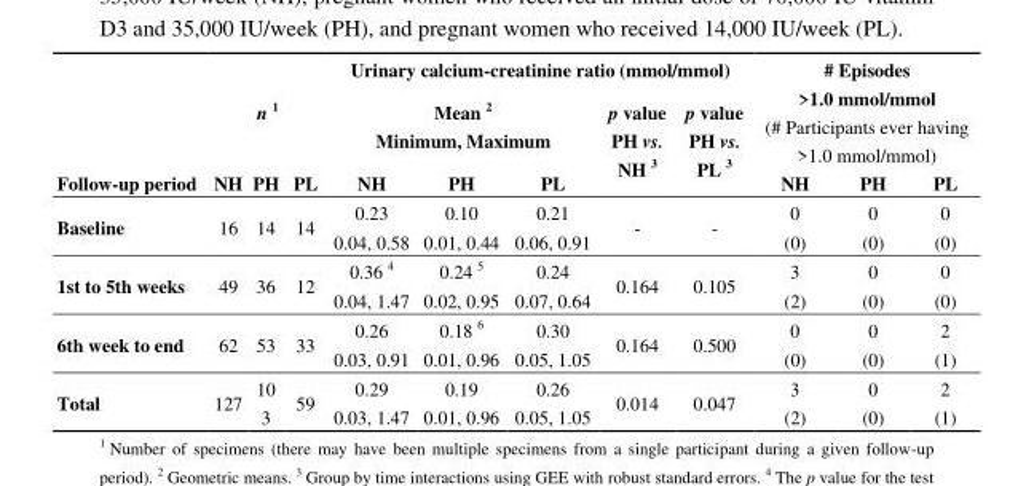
<table><thead><tr><td rowspan="3">Follow-up period</td><td rowspan="2" colspan="3">n <sup>1</sup></td><td colspan="5">Urinary calcium-creatinine ratio (mmol/mmol)</td><td rowspan="2" colspan="3"># Episodes &gt;1.0 mmol/mmol (# Participants ever having &gt;1.0 mmol/mmol)</td></tr><tr><td colspan="3">Mean <sup>2</sup> Minimum, Maximum</td><td rowspan="2">p value PH vs. NH <sup>3</sup></td><td rowspan="2">p value PH vs. PL <sup>3</sup></td></tr><tr><td>NH</td><td>PH</td><td>PL</td><td>NH</td><td>PH</td><td>PL</td><td>NH</td><td>PH</td><td>PL</td></tr></thead><tbody><tr><td rowspan="2">Baseline</td><td rowspan="2">16</td><td rowspan="2">14</td><td rowspan="2">14</td><td>0.23</td><td>0.10</td><td>0.21</td><td rowspan="2">-</td><td rowspan="2">-</td><td>0</td><td>0</td><td>0</td></tr><tr><td>0.04, 0.58</td><td>0.01, 0.44</td><td>0.06, 0.91</td><td>(0)</td><td>(0)</td><td>(0)</td></tr><tr><td rowspan="2">1st to 5th weeks</td><td rowspan="2">49</td><td rowspan="2">36</td><td rowspan="2">12</td><td>0.36 <sup>4</sup></td><td>0.24 <sup>5</sup></td><td>0.24</td><td rowspan="2">0.164</td><td rowspan="2">0.105</td><td>3</td><td>0</td><td>0</td></tr><tr><td>0.04, 1.47</td><td>0.02, 0.95</td><td>0.07, 0.64</td><td>(2)</td><td>(0)</td><td>(0)</td></tr><tr><td rowspan="2">6th week to end</td><td rowspan="2">62</td><td rowspan="2">53</td><td rowspan="2">33</td><td>0.26</td><td>0.18 <sup>6</sup></td><td>0.30</td><td rowspan="2">0.164</td><td rowspan="2">0.500</td><td>0</td><td>0</td><td>2</td></tr><tr><td>0.03, 0.91</td><td>0.01, 0.96</td><td>0.05, 1.05</td><td>(0)</td><td>(0)</td><td>(1)</td></tr><tr><td rowspan="2">Total</td><td rowspan="2">127</td><td rowspan="2">10 3</td><td rowspan="2">59</td><td>0.29</td><td>0.19</td><td>0.26</td><td rowspan="2">0.014</td><td rowspan="2">0.047</td><td>3</td><td>0</td><td>2</td></tr><tr><td>0.03, 1.47</td><td>0.01, 0.96</td><td>0.05, 1.05</td><td>(2)</td><td>(0)</td><td>(1)</td></tr></tbody></table>